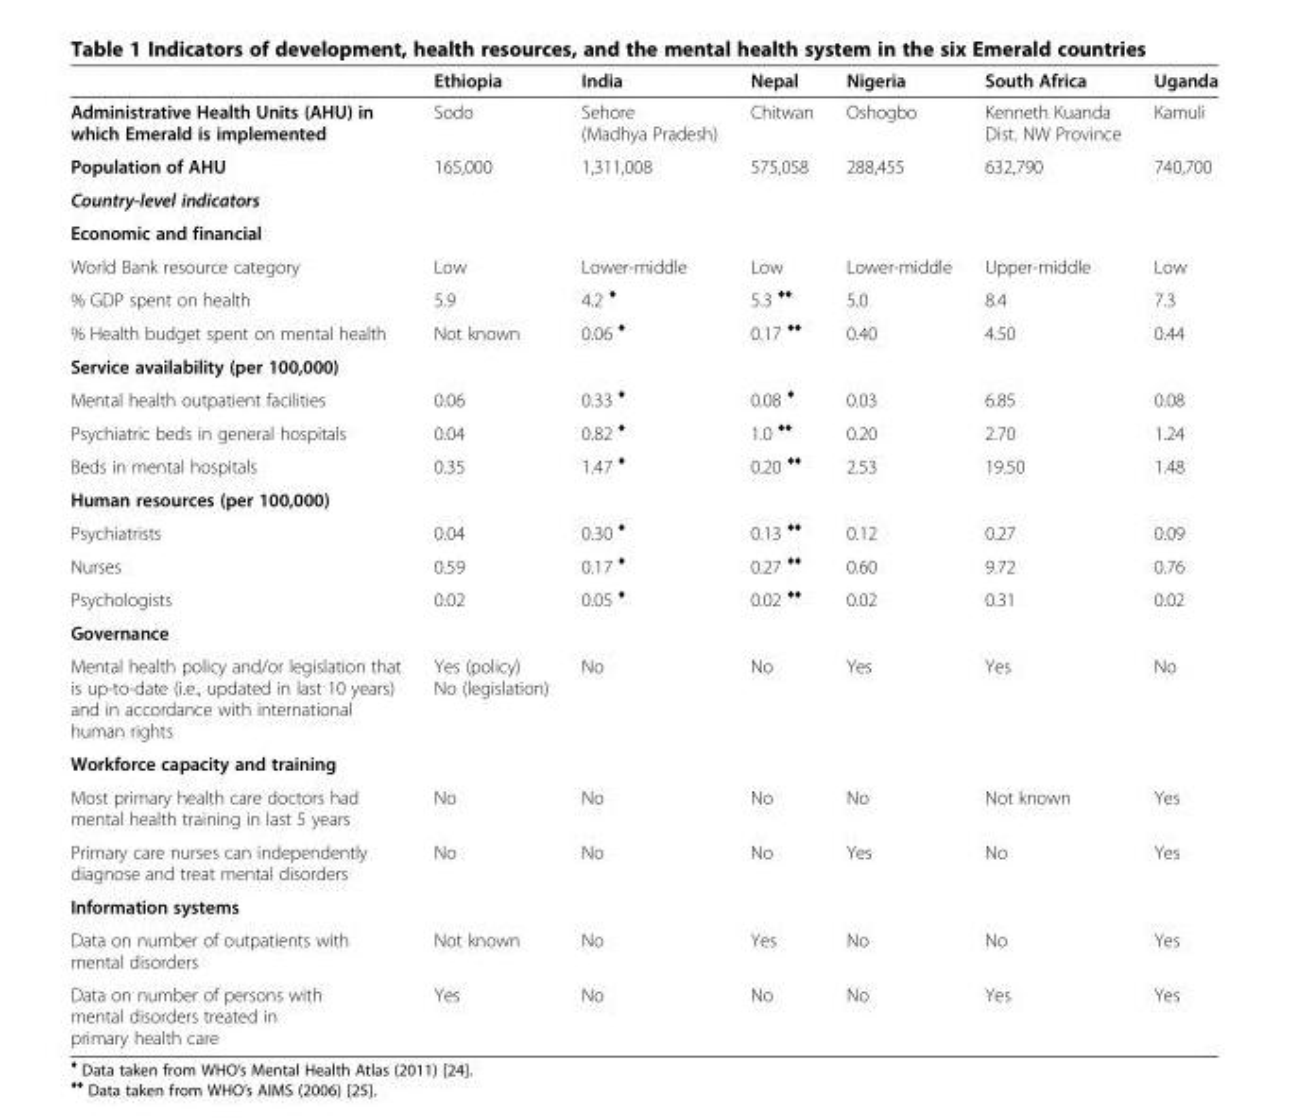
<table><thead><tr><td></td><td>Ethiopia</td><td>India</td><td>Nepal</td><td>Nigeria</td><td>South Africa</td><td>Uganda</td></tr></thead><tbody><tr><td>Administrative Health Units (AHU) in which Emerald is implemented</td><td>Sodo</td><td>Sehore (Madhya Pradesh)</td><td>Chitwan</td><td>Oshogbo</td><td>Kenneth Kuanda Dist. NW Province</td><td>Kamuli</td></tr><tr><td>Population of AHU</td><td>165,000</td><td>1,311,008</td><td>575,058</td><td>288,455</td><td>632,790</td><td>740,700</td></tr><tr><td colspan="7">Country-level indicators</td></tr><tr><td colspan="7">Economic and financial</td></tr><tr><td>World Bank resource category</td><td>Low</td><td>Lower-middle</td><td>Low</td><td>Lower-middle</td><td>Upper-middle</td><td>Low</td></tr><tr><td>% GDP spent on health</td><td>5.9</td><td>4.2 <sup>♦</sup></td><td>5.3 <sup>♦♦</sup></td><td>5.0</td><td>8.4</td><td>7.3</td></tr><tr><td>% Health budget spent on mental health</td><td>Not known</td><td>0.06 <sup>♦</sup></td><td>0.17 <sup>♦♦</sup></td><td>0.40</td><td>4.50</td><td>0.44</td></tr><tr><td colspan="7">Service availability (per 100,000)</td></tr><tr><td>Mental health outpatient facilities</td><td>0.06</td><td>0.33 <sup>♦</sup></td><td>0.08 <sup>♦</sup></td><td>0.03</td><td>6.85</td><td>0.08</td></tr><tr><td>Psychiatric beds in general hospitals</td><td>0.04</td><td>0.82 <sup>♦</sup></td><td>1.0 <sup>♦♦</sup></td><td>0.20</td><td>2.70</td><td>1.24</td></tr><tr><td>Beds in mental hospitals</td><td>0.35</td><td>1.47 <sup>♦</sup></td><td>0.20 <sup>♦♦</sup></td><td>2.53</td><td>19.50</td><td>1.48</td></tr><tr><td colspan="7">Human resources (per 100,000)</td></tr><tr><td>Psychiatrists</td><td>0.04</td><td>0.30 <sup>♦</sup></td><td>0.13 <sup>♦♦</sup></td><td>0.12</td><td>0.27</td><td>0.09</td></tr><tr><td>Nurses</td><td>0.59</td><td>0.17 <sup>♦</sup></td><td>0.27 <sup>♦♦</sup></td><td>0.60</td><td>9.72</td><td>0.76</td></tr><tr><td>Psychologists</td><td>0.02</td><td>0.05 <sup>♦</sup></td><td>0.02 <sup>♦♦</sup></td><td>0.02</td><td>0.31</td><td>0.02</td></tr><tr><td colspan="7">Governance</td></tr><tr><td>Mental health policy and/or legislation that is up-to-date (i.e., updated in last 10 years) and in accordance with international human rights</td><td>Yes (policy) No (legislation)</td><td>No</td><td>No</td><td>Yes</td><td>Yes</td><td>No</td></tr><tr><td colspan="7">Workforce capacity and training</td></tr><tr><td>Most primary health care doctors had mental health training in last 5 years</td><td>No</td><td>No</td><td>No</td><td>No</td><td>Not known</td><td>Yes</td></tr><tr><td>Primary care nurses can independently diagnose and treat mental disorders</td><td>No</td><td>No</td><td>No</td><td>Yes</td><td>No</td><td>Yes</td></tr><tr><td colspan="7">Information systems</td></tr><tr><td>Data on number of outpatients with mental disorders</td><td>Not known</td><td>No</td><td>Yes</td><td>No</td><td>No</td><td>Yes</td></tr><tr><td>Data on number of persons with mental disorders treated in primary health care</td><td>Yes</td><td>No</td><td>No</td><td>No</td><td>Yes</td><td>Yes</td></tr></tbody></table>